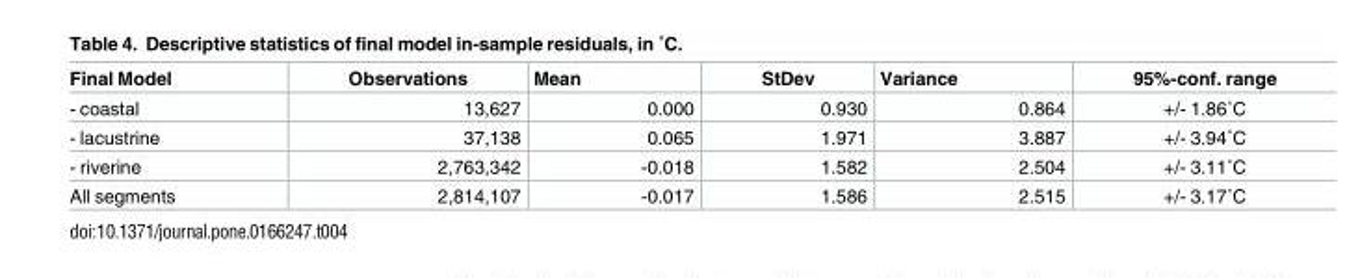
<table><thead><tr><td>Final Model</td><td>Observations</td><td>Mean</td><td>StDev</td><td>Variance</td><td>95%-conf. range</td></tr></thead><tbody><tr><td>- coastal</td><td>13,627</td><td>0.000</td><td>0.930</td><td>0.864</td><td>+/- 1.86˚C</td></tr><tr><td>- lacustrine</td><td>37,138</td><td>0.065</td><td>1.971</td><td>3.887</td><td>+/- 3.94˚C</td></tr><tr><td>- riverine</td><td>2,763,342</td><td>-0.018</td><td>1.582</td><td>2.504</td><td>+/- 3.11˚C</td></tr><tr><td>All segments</td><td>2,814,107</td><td>-0.017</td><td>1.586</td><td>2.515</td><td>+/- 3.17˚C</td></tr></tbody></table>